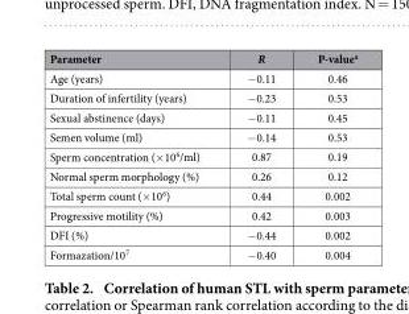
<table><thead><tr><td>Parameter</td><td>R</td><td>P-value<sup>a</sup></td></tr></thead><tbody><tr><td>Age (years)</td><td>− 0.11</td><td>0.46</td></tr><tr><td>Duration of infertility (years)</td><td>− 0.23</td><td>0.53</td></tr><tr><td>Sexual abstinence (days)</td><td>− 0.11</td><td>0.45</td></tr><tr><td>Semen volume (ml)</td><td>− 0.14</td><td>0.53</td></tr><tr><td>Sperm concentration (× 10<sup>6</sup>/ml)</td><td>0.87</td><td>0.19</td></tr><tr><td>Normal sperm morphology (%)</td><td>0.26</td><td>0.12</td></tr><tr><td>Total sperm count (× 10<sup>6</sup>)</td><td>0.44</td><td>0.002</td></tr><tr><td>Progressive motility (%)</td><td>0.42</td><td>0.003</td></tr><tr><td>DFI (%)</td><td>− 0.44</td><td>0.002</td></tr><tr><td>Formazation/10<sup>7</sup></td><td>− 0.40</td><td>0.004</td></tr></tbody></table>